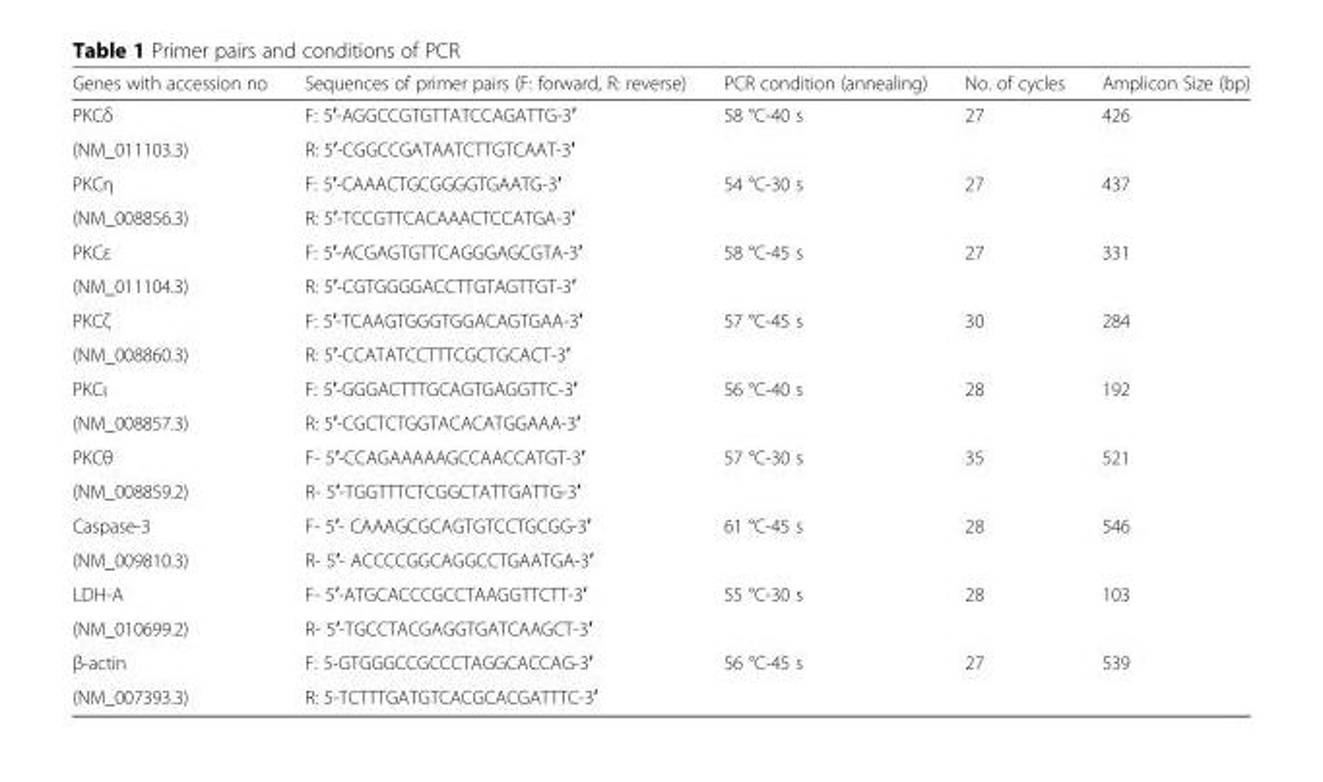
<table><thead><tr><td>Genes with accession no</td><td>Sequences of primer pairs (F: forward, R: reverse)</td><td>PCR condition (annealing)</td><td>No. of cycles</td><td>Amplicon Size (bp)</td></tr></thead><tbody><tr><td>PKCδ</td><td>F: 5′-AGGCCGTGTTATCCAGATTG-3′</td><td>58 °C-40 s</td><td>27</td><td>426</td></tr><tr><td>(NM_011103.3)</td><td>R: 5′-CGGCCGATAATCTTGTCAAT-3′</td><td></td><td></td><td></td></tr><tr><td>PKCη</td><td>F: 5′-CAAACTGCGGGGTGAATG-3′</td><td>54 °C-30 s</td><td>27</td><td>437</td></tr><tr><td>(NM_008856.3)</td><td>R: 5′-TCCGTTCACAAACTCCATGA-3′</td><td></td><td></td><td></td></tr><tr><td>PKCε</td><td>F: 5′-ACGAGTGTTCAGGGAGCGTA-3′</td><td>58 °C-45 s</td><td>27</td><td>331</td></tr><tr><td>(NM_011104.3)</td><td>R: 5′-CGTGGGGACCTTGTAGTTGT-3′</td><td></td><td></td><td></td></tr><tr><td>PKCζ</td><td>F: 5′-TCAAGTGGGTGGACAGTGAA-3′</td><td>57 °C-45 s</td><td>30</td><td>284</td></tr><tr><td>(NM_008860.3)</td><td>R: 5′-CCATATCCTTTCGCTGCACT-3′</td><td></td><td></td><td></td></tr><tr><td>PKCι</td><td>F: 5′-GGGACTTTGCAGTGAGGTTC-3′</td><td>56 °C-40 s</td><td>28</td><td>192</td></tr><tr><td>(NM_008857.3)</td><td>R: 5′-CGCTCTGGTACACATGGAAA-3′</td><td></td><td></td><td></td></tr><tr><td>PKCθ</td><td>F- 5′-CCAGAAAAAGCCAACCATGT-3′</td><td>57 °C-30 s</td><td>35</td><td>521</td></tr><tr><td>(NM_008859.2)</td><td>R- 5′-TGGTTTCTCGGCTATTGATTG-3′</td><td></td><td></td><td></td></tr><tr><td>Caspase-3</td><td>F- 5′- CAAAGCGCAGTGTCCTGCGG-3′</td><td>61 °C-45 s</td><td>28</td><td>546</td></tr><tr><td>(NM_009810.3)</td><td>R- 5′- ACCCCGGCAGGCCTGAATGA-3′</td><td></td><td></td><td></td></tr><tr><td>LDH-A</td><td>F- 5′-ATGCACCCGCCTAAGGTTCTT-3′</td><td>55 °C-30 s</td><td>28</td><td>103</td></tr><tr><td>(NM_010699.2)</td><td>R- 5′-TGCCTACGAGGTGATCAAGCT-3′</td><td></td><td></td><td></td></tr><tr><td>β-actin</td><td>F: 5-GTGGGCCGCCCTAGGCACCAG-3′</td><td>56 °C-45 s</td><td>27</td><td>539</td></tr><tr><td>(NM_007393.3)</td><td>R: 5-TCTTTGATGTCACGCACGATTTC-3′</td><td></td><td></td><td></td></tr></tbody></table>